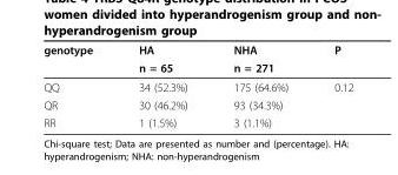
<table><thead><tr><td rowspan="2">genotype</td><td rowspan="2">HA n = 65</td><td rowspan="2">NHA n = 271</td><td rowspan="2">P</td></tr><tr></tr></thead><tbody><tr><td>QQ</td><td>34 (52.3%)</td><td>175 (64.6%)</td><td>0.12</td></tr><tr><td>QR</td><td>30 (46.2%)</td><td>93 (34.3%)</td><td></td></tr><tr><td>RR</td><td>1 (1.5%)</td><td>3 (1.1%)</td><td></td></tr></tbody></table>